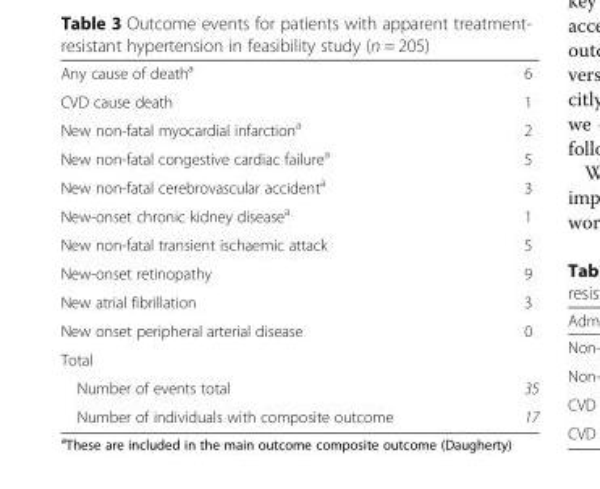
<table><tbody><tr><td>Any cause of death<sup>a</sup></td><td>6</td></tr><tr><td>CVD cause death</td><td>1</td></tr><tr><td>New non-fatal myocardial infarction<sup>a</sup></td><td>2</td></tr><tr><td>New non-fatal congestive cardiac failure<sup>a</sup></td><td>5</td></tr><tr><td>New non-fatal cerebrovascular accident<sup>a</sup></td><td>3</td></tr><tr><td>New-onset chronic kidney disease<sup>a</sup></td><td>1</td></tr><tr><td>New non-fatal transient ischaemic attack</td><td>5</td></tr><tr><td>New-onset retinopathy</td><td>9</td></tr><tr><td>New atrial fibrillation</td><td>3</td></tr><tr><td>New onset peripheral arterial disease</td><td>0</td></tr><tr><td colspan="2">Total</td></tr><tr><td>Number of events total</td><td>35</td></tr><tr><td>Number of individuals with composite outcome</td><td>17</td></tr></tbody></table>